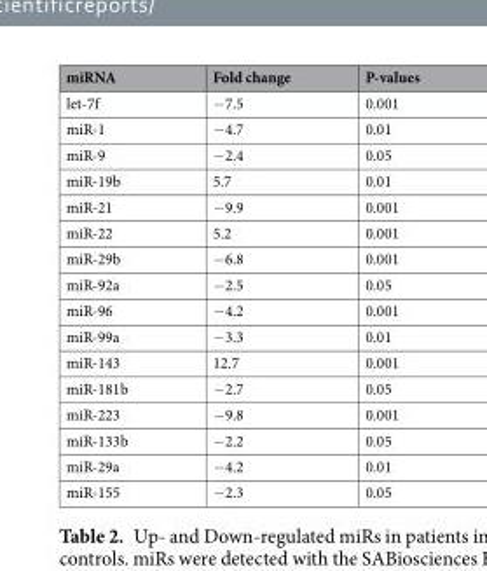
<table><thead><tr><td>miRNA</td><td>Fold change</td><td>P-values</td></tr></thead><tbody><tr><td>let-7f</td><td>−7.5</td><td>0.001</td></tr><tr><td>miR-1</td><td>−4.7</td><td>0.01</td></tr><tr><td>miR-9</td><td>−2.4</td><td>0.05</td></tr><tr><td>miR-19b</td><td>5.7</td><td>0.01</td></tr><tr><td>miR-21</td><td>−9.9</td><td>0.001</td></tr><tr><td>miR-22</td><td>5.2</td><td>0.001</td></tr><tr><td>miR-29b</td><td>−6.8</td><td>0.001</td></tr><tr><td>miR-92a</td><td>−2.5</td><td>0.05</td></tr><tr><td>miR-96</td><td>−4.2</td><td>0.001</td></tr><tr><td>miR-99a</td><td>−3.3</td><td>0.01</td></tr><tr><td>miR-143</td><td>12.7</td><td>0.001</td></tr><tr><td>miR-181b</td><td>−2.7</td><td>0.05</td></tr><tr><td>miR-223</td><td>−9.8</td><td>0.001</td></tr><tr><td>miR-133b</td><td>−2.2</td><td>0.05</td></tr><tr><td>miR-29a</td><td>−4.2</td><td>0.01</td></tr><tr><td>miR-155</td><td>−2.3</td><td>0.05</td></tr></tbody></table>